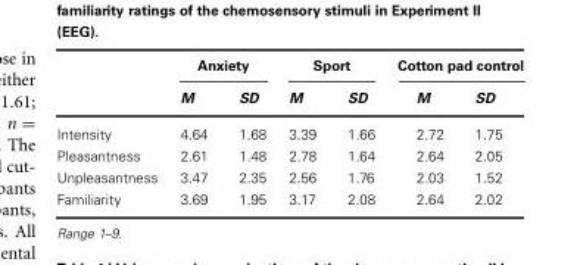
<table><thead><tr><td rowspan="2"></td><td colspan="2">Anxiety</td><td colspan="2">Sport</td><td colspan="2">Cotton pad control</td></tr><tr><td>M</td><td>SD</td><td>M</td><td>SD</td><td>M</td><td>SD</td></tr></thead><tbody><tr><td>Intensity</td><td>4.64</td><td>1.68</td><td>3.39</td><td>1.66</td><td>2.72</td><td>1.75</td></tr><tr><td>Pleasantness</td><td>2.61</td><td>1.48</td><td>2.78</td><td>1.64</td><td>2.64</td><td>2.05</td></tr><tr><td>Unpleasantness</td><td>3.47</td><td>2.35</td><td>2.56</td><td>1.76</td><td>2.03</td><td>1.52</td></tr><tr><td>Familiarity</td><td>3.69</td><td>1.95</td><td>3.17</td><td>2.08</td><td>2.64</td><td>2.02</td></tr></tbody></table>